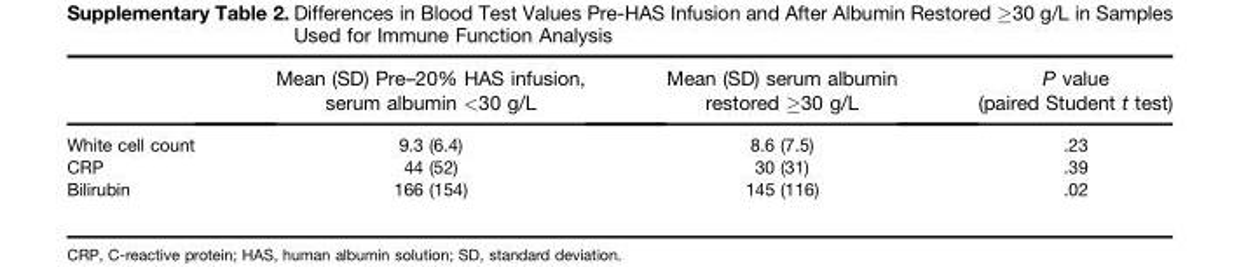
<table><thead><tr><td></td><td>Mean (SD) Pre–20% HAS infusion, serum albumin &lt;30 g/L</td><td>Mean (SD) serum albumin restored ≥30 g/L</td><td>P value (paired Student t test)</td></tr></thead><tbody><tr><td>White cell count</td><td>9.3 (6.4)</td><td>8.6 (7.5)</td><td>.23</td></tr><tr><td>CRP</td><td>44 (52)</td><td>30 (31)</td><td>.39</td></tr><tr><td>Bilirubin</td><td>166 (154)</td><td>145 (116)</td><td>.02</td></tr></tbody></table>